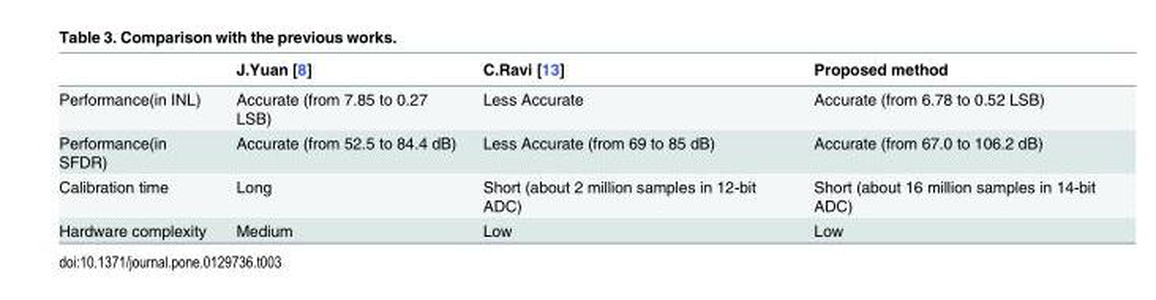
<table><thead><tr><td></td><td>J.Yuan [8]</td><td>C.Ravi [13]</td><td>Proposed method</td></tr></thead><tbody><tr><td>Performance(in INL)</td><td>Accurate (from 7.85 to 0.27 LSB)</td><td>Less Accurate</td><td>Accurate (from 6.78 to 0.52 LSB)</td></tr><tr><td>Performance(in SFDR)</td><td>Accurate (from 52.5 to 84.4 dB)</td><td>Less Accurate (from 69 to 85 dB)</td><td>Accurate (from 67.0 to 106.2 dB)</td></tr><tr><td>Calibration time</td><td>Long</td><td>Short (about 2 million samples in 12-bit ADC)</td><td>Short (about 16 million samples in 14-bit ADC)</td></tr><tr><td>Hardware complexity</td><td>Medium</td><td>Low</td><td>Low</td></tr></tbody></table>